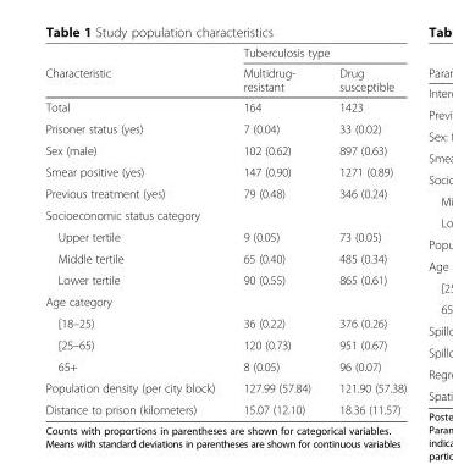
<table><thead><tr><td rowspan="2">Characteristic</td><td colspan="2">Tuberculosis type</td></tr><tr><td>Multidrug- resistant</td><td>Drug susceptible</td></tr></thead><tbody><tr><td>Total</td><td>164</td><td>1423</td></tr><tr><td>Prisoner status (yes)</td><td>7 (0.04)</td><td>33 (0.02)</td></tr><tr><td>Sex (male)</td><td>102 (0.62)</td><td>897 (0.63)</td></tr><tr><td>Smear positive (yes)</td><td>147 (0.90)</td><td>1271 (0.89)</td></tr><tr><td>Previous treatment (yes)</td><td>79 (0.48)</td><td>346 (0.24)</td></tr><tr><td colspan="3">Socioeconomic status category</td></tr><tr><td>Upper tertile</td><td>9 (0.05)</td><td>73 (0.05)</td></tr><tr><td>Middle tertile</td><td>65 (0.40)</td><td>485 (0.34)</td></tr><tr><td>Lower tertile</td><td>90 (0.55)</td><td>865 (0.61)</td></tr><tr><td colspan="3">Age category</td></tr><tr><td>[18–25)</td><td>36 (0.22)</td><td>376 (0.26)</td></tr><tr><td>[25–65)</td><td>120 (0.73)</td><td>951 (0.67)</td></tr><tr><td>65+</td><td>8 (0.05)</td><td>96 (0.07)</td></tr><tr><td>Population density (per city block)</td><td>127.99 (57.84)</td><td>121.90 (57.38)</td></tr><tr><td>Distance to prison (kilometers)</td><td>15.07 (12.10)</td><td>18.36 (11.57)</td></tr></tbody></table>